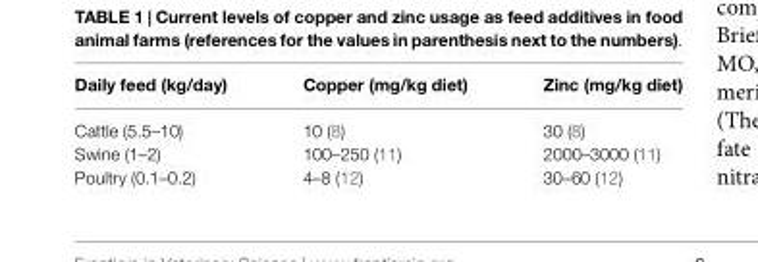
<table><thead><tr><td>Daily feed (kg/day)</td><td>Copper (mg/kg diet)</td><td>Zinc (mg/kg diet)</td></tr></thead><tbody><tr><td>Cattle (5.5–10)</td><td>10 (8)</td><td>30 (8)</td></tr><tr><td>Swine (1–2)</td><td>100–250 (11)</td><td>2000–3000 (11)</td></tr><tr><td>Poultry (0.1–0.2)</td><td>4–8 (12)</td><td>30–60 (12)</td></tr></tbody></table>